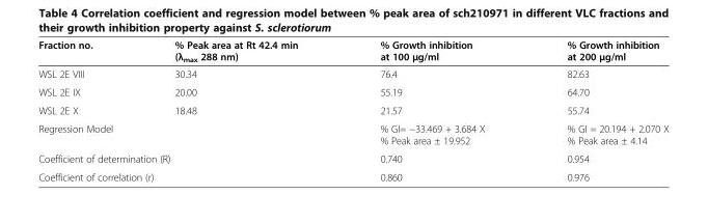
<table><thead><tr><td>Fraction no.</td><td>% Peak area at Rt 42.4 min (λ<sub>max</sub> 288 nm)</td><td>% Growth inhibition at 100 μg/ml</td><td>% Growth inhibition at 200 μg/ml</td></tr></thead><tbody><tr><td>WSL 2E VIII</td><td>30.34</td><td>76.4</td><td>82.63</td></tr><tr><td>WSL 2E IX</td><td>20.00</td><td>55.19</td><td>64.70</td></tr><tr><td>WSL 2E X</td><td>18.48</td><td>21.57</td><td>55.74</td></tr><tr><td colspan="2">Regression Model</td><td>% GI= −33.469 + 3.684 X % Peak area ± 19.952</td><td>% GI = 20.194 + 2.070 X % Peak area ± 4.14</td></tr><tr><td colspan="2">Coefficient of determination (R)</td><td>0.740</td><td>0.954</td></tr><tr><td colspan="2">Coefficient of correlation (r)</td><td>0.860</td><td>0.976</td></tr></tbody></table>